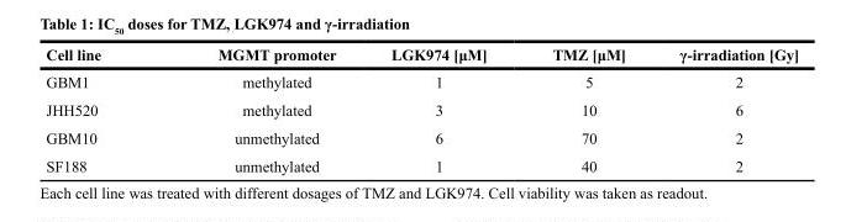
<table><thead><tr><td>Cell line</td><td>MGMT promoter</td><td>LGK974 [μM]</td><td>TMZ [μM]</td><td>γ-irradiation [Gy]</td></tr></thead><tbody><tr><td>GBM1</td><td>methylated</td><td>1</td><td>5</td><td>2</td></tr><tr><td>JHH520</td><td>methylated</td><td>3</td><td>10</td><td>6</td></tr><tr><td>GBM10</td><td>unmethylated</td><td>6</td><td>70</td><td>2</td></tr><tr><td>SF188</td><td>unmethylated</td><td>1</td><td>40</td><td>2</td></tr></tbody></table>